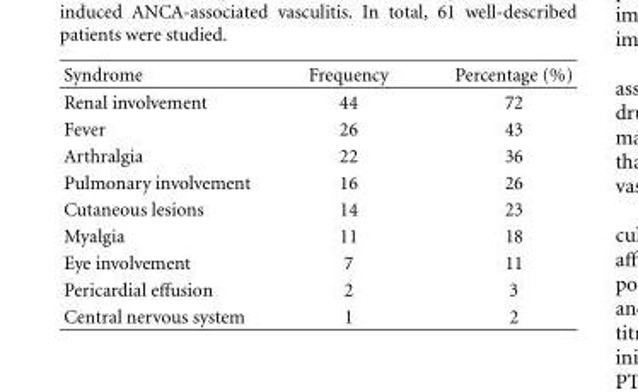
<table><thead><tr><td>Syndrome</td><td>Frequency</td><td>Percentage (%)</td></tr></thead><tbody><tr><td>Renal involvement</td><td>44</td><td>72</td></tr><tr><td>Fever</td><td>26</td><td>43</td></tr><tr><td>Arthralgia</td><td>22</td><td>36</td></tr><tr><td>Pulmonary involvement</td><td>16</td><td>26</td></tr><tr><td>Cutaneous lesions</td><td>14</td><td>23</td></tr><tr><td>Myalgia</td><td>11</td><td>18</td></tr><tr><td>Eye involvement</td><td>7</td><td>11</td></tr><tr><td>Pericardial effusion</td><td>2</td><td>3</td></tr><tr><td>Central nervous system</td><td>1</td><td>2</td></tr></tbody></table>